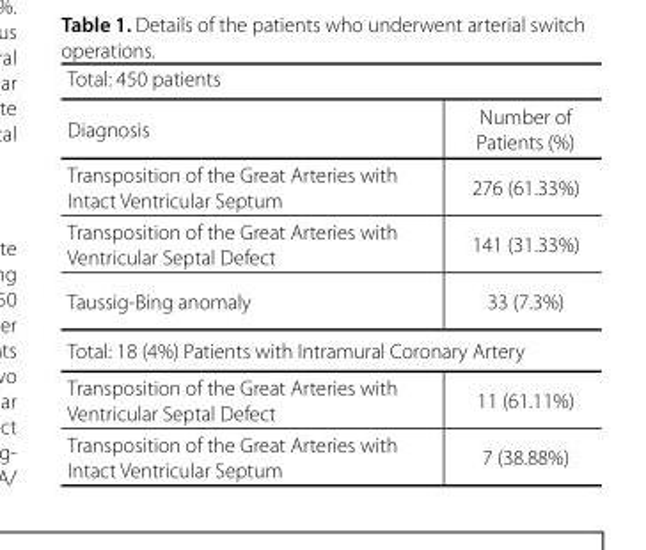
<table><thead><tr><td colspan="2">Total: 450 patients</td></tr><tr><td>Diagnosis</td><td>Number of Patients (%)</td></tr></thead><tbody><tr><td>Transposition of the Great Arteries with Intact Ventricular Septum</td><td>276 (61.33%)</td></tr><tr><td>Transposition of the Great Arteries with Ventricular Septal Defect</td><td>141 (31.33%)</td></tr><tr><td>Taussig-Bing anomaly</td><td>33 (7.3%)</td></tr><tr><td colspan="2">Total: 18 (4%) Patients with Intramural Coronary Artery</td></tr><tr><td>Transposition of the Great Arteries with Ventricular Septal Defect</td><td>11 (61.11%)</td></tr><tr><td>Transposition of the Great Arteries with Intact Ventricular Septum</td><td>7 (38.88%)</td></tr></tbody></table>